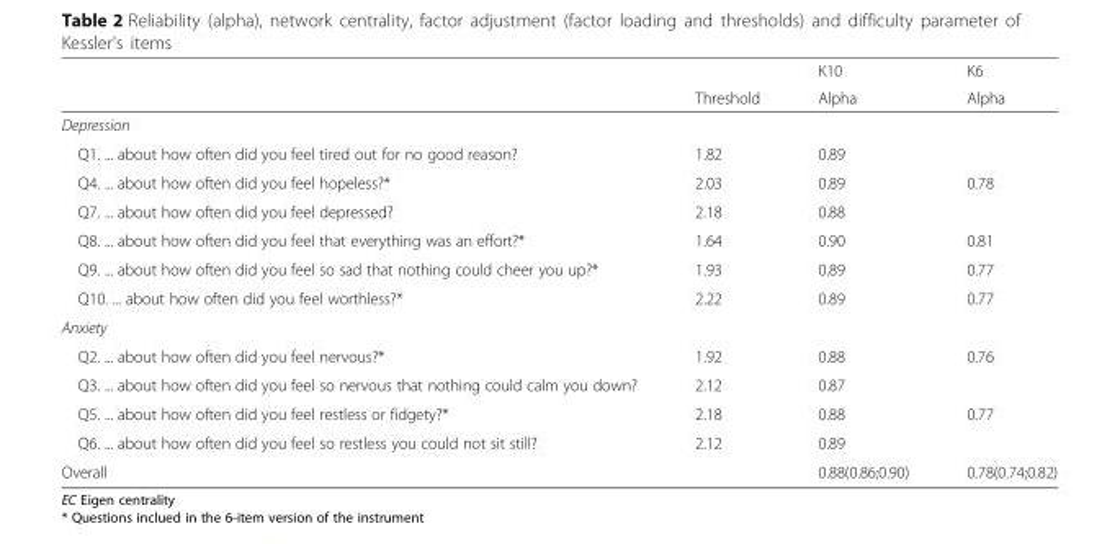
<table><thead><tr><td rowspan="2"></td><td rowspan="2">Threshold</td><td rowspan="2">K10 Alpha</td><td rowspan="2">K6 Alpha</td></tr><tr></tr></thead><tbody><tr><td colspan="4">Depression</td></tr><tr><td>Q1. ... about how often did you feel tired out for no good reason?</td><td>1.82</td><td>0.89</td><td></td></tr><tr><td>Q4. ... about how often did you feel hopeless?*</td><td>2.03</td><td>0.89</td><td>0.78</td></tr><tr><td>Q7. ... about how often did you feel depressed?</td><td>2.18</td><td>0.88</td><td></td></tr><tr><td>Q8. ... about how often did you feel that everything was an effort?*</td><td>1.64</td><td>0.90</td><td>0.81</td></tr><tr><td>Q9. ... about how often did you feel so sad that nothing could cheer you up?*</td><td>1.93</td><td>0.89</td><td>0.77</td></tr><tr><td>Q10. ... about how often did you feel worthless?*</td><td>2.22</td><td>0.89</td><td>0.77</td></tr><tr><td colspan="4">Anxiety</td></tr><tr><td>Q2. ... about how often did you feel nervous?*</td><td>1.92</td><td>0.88</td><td>0.76</td></tr><tr><td>Q3. ... about how often did you feel so nervous that nothing could calm you down?</td><td>2.12</td><td>0.87</td><td></td></tr><tr><td>Q5. ... about how often did you feel restless or fidgety?*</td><td>2.18</td><td>0.88</td><td>0.77</td></tr><tr><td>Q6. ... about how often did you feel so restless you could not sit still?</td><td>2.12</td><td>0.89</td><td></td></tr><tr><td>Overall</td><td></td><td>0.88(0.86;0.90)</td><td>0.78(0.74;0.82)</td></tr></tbody></table>